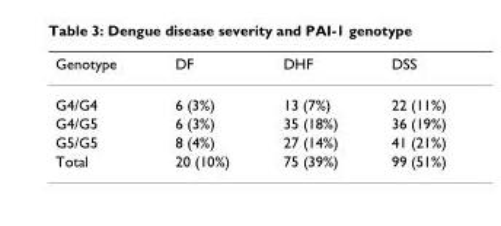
<table><thead><tr><td>Genotype</td><td>DF</td><td>DHF</td><td>DSS</td></tr></thead><tbody><tr><td>G4/G4</td><td>6 (3%)</td><td>13 (7%)</td><td>22 (11%)</td></tr><tr><td>G4/G5</td><td>6 (3%)</td><td>35 (18%)</td><td>36 (19%)</td></tr><tr><td>G5/G5</td><td>8 (4%)</td><td>27 (14%)</td><td>41 (21%)</td></tr><tr><td>Total</td><td>20 (10%)</td><td>75 (39%)</td><td>99 (51%)</td></tr></tbody></table>